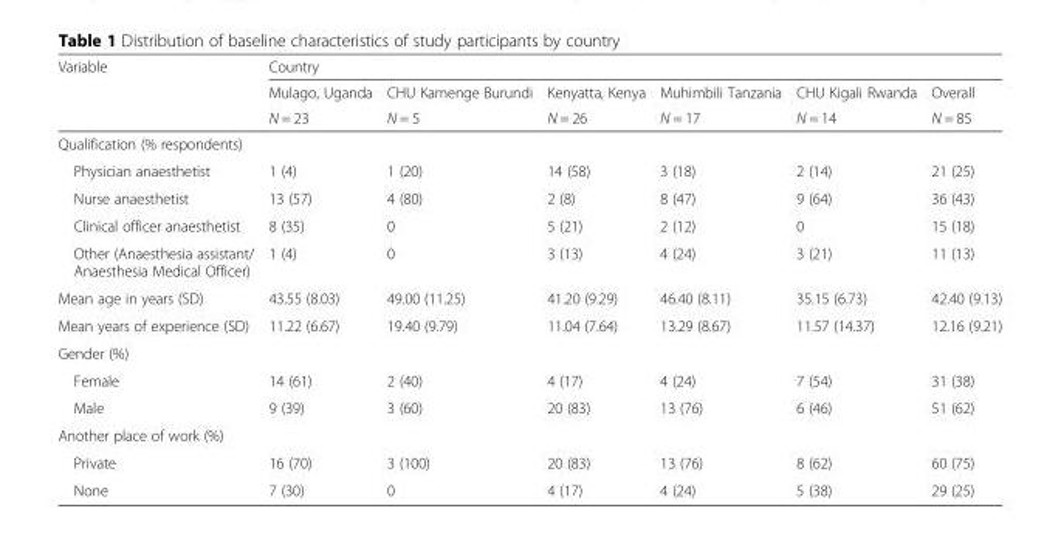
<table><thead><tr><td rowspan="3">Variable</td><td colspan="6">Country</td></tr><tr><td rowspan="2">Mulago, Uganda N = 23</td><td rowspan="2">CHU Kamenge Burundi N = 5</td><td rowspan="2">Kenyatta, Kenya N = 26</td><td rowspan="2">Muhimbili Tanzania N = 17</td><td rowspan="2">CHU Kigali Rwanda N = 14</td><td rowspan="2">Overall N = 85</td></tr><tr></tr></thead><tbody><tr><td colspan="7">Qualification (% respondents)</td></tr><tr><td>Physician anaesthetist</td><td>1 (4)</td><td>1 (20)</td><td>14 (58)</td><td>3 (18)</td><td>2 (14)</td><td>21 (25)</td></tr><tr><td>Nurse anaesthetist</td><td>13 (57)</td><td>4 (80)</td><td>2 (8)</td><td>8 (47)</td><td>9 (64)</td><td>36 (43)</td></tr><tr><td>Clinical officer anaesthetist</td><td>8 (35)</td><td>0</td><td>5 (21)</td><td>2 (12)</td><td>0</td><td>15 (18)</td></tr><tr><td>Other (Anaesthesia assistant/ Anaesthesia Medical Officer)</td><td>1 (4)</td><td>0</td><td>3 (13)</td><td>4 (24)</td><td>3 (21)</td><td>11 (13)</td></tr><tr><td>Mean age in years (SD)</td><td>43.55 (8.03)</td><td>49.00 (11.25)</td><td>41.20 (9.29)</td><td>46.40 (8.11)</td><td>35.15 (6.73)</td><td>42.40 (9.13)</td></tr><tr><td>Mean years of experience (SD)</td><td>11.22 (6.67)</td><td>19.40 (9.79)</td><td>11.04 (7.64)</td><td>13.29 (8.67)</td><td>11.57 (14.37)</td><td>12.16 (9.21)</td></tr><tr><td colspan="7">Gender (%)</td></tr><tr><td>Female</td><td>14 (61)</td><td>2 (40)</td><td>4 (17)</td><td>4 (24)</td><td>7 (54)</td><td>31 (38)</td></tr><tr><td>Male</td><td>9 (39)</td><td>3 (60)</td><td>20 (83)</td><td>13 (76)</td><td>6 (46)</td><td>51 (62)</td></tr><tr><td colspan="7">Another place of work (%)</td></tr><tr><td>Private</td><td>16 (70)</td><td>3 (100)</td><td>20 (83)</td><td>13 (76)</td><td>8 (62)</td><td>60 (75)</td></tr><tr><td>None</td><td>7 (30)</td><td>0</td><td>4 (17)</td><td>4 (24)</td><td>5 (38)</td><td>29 (25)</td></tr></tbody></table>